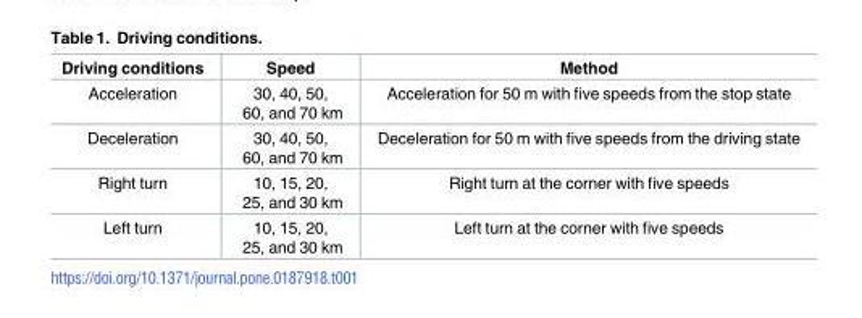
<table><thead><tr><td>Driving conditions</td><td>Speed</td><td>Method</td></tr></thead><tbody><tr><td>Acceleration</td><td>30, 40, 50, 60, and 70 km</td><td>Acceleration for 50 m with five speeds from the stop state</td></tr><tr><td>Deceleration</td><td>30, 40, 50, 60, and 70 km</td><td>Deceleration for 50 m with five speeds from the driving state</td></tr><tr><td>Right turn</td><td>10, 15, 20, 25, and 30 km</td><td>Right turn at the corner with five speeds</td></tr><tr><td>Left turn</td><td>10, 15, 20, 25, and 30 km</td><td>Left turn at the corner with five speeds</td></tr></tbody></table>